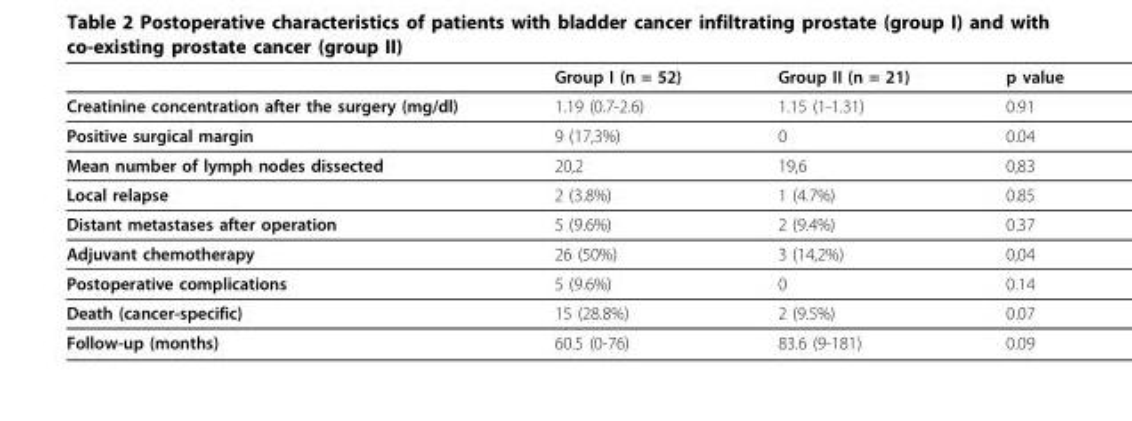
<table><thead><tr><td></td><td>Group I (n = 52)</td><td>Group II (n = 21)</td><td>p value</td></tr></thead><tbody><tr><td>Creatinine concentration after the surgery (mg/dl)</td><td>1.19 (0.7-2.6)</td><td>1.15 (1-1.31)</td><td>0.91</td></tr><tr><td>Positive surgical margin</td><td>9 (17,3%)</td><td>0</td><td>0.04</td></tr><tr><td>Mean number of lymph nodes dissected</td><td>20,2</td><td>19,6</td><td>0,83</td></tr><tr><td>Local relapse</td><td>2 (3.8%)</td><td>1 (4.7%)</td><td>0.85</td></tr><tr><td>Distant metastases after operation</td><td>5 (9.6%)</td><td>2 (9.4%)</td><td>0.37</td></tr><tr><td>Adjuvant chemotherapy</td><td>26 (50%)</td><td>3 (14,2%)</td><td>0,04</td></tr><tr><td>Postoperative complications</td><td>5 (9.6%)</td><td>0</td><td>0.14</td></tr><tr><td>Death (cancer-specific)</td><td>15 (28.8%)</td><td>2 (9.5%)</td><td>0.07</td></tr><tr><td>Follow-up (months)</td><td>60.5 (0-76)</td><td>83.6 (9-181)</td><td>0.09</td></tr></tbody></table>